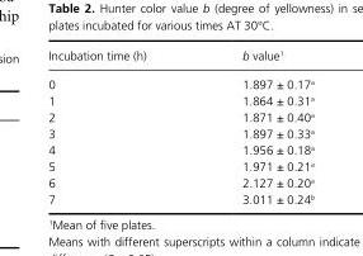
<table><thead><tr><td>Incubation time (h)</td><td>b value<sup>1</sup></td></tr></thead><tbody><tr><td>0</td><td>1.897 ± 0.17<sup>a</sup></td></tr><tr><td>1</td><td>1.864 ± 0.31<sup>a</sup></td></tr><tr><td>2</td><td>1.871 ± 0.40<sup>a</sup></td></tr><tr><td>3</td><td>1.897 ± 0.33<sup>a</sup></td></tr><tr><td>4</td><td>1.956 ± 0.18<sup>a</sup></td></tr><tr><td>5</td><td>1.971 ± 0.21<sup>a</sup></td></tr><tr><td>6</td><td>2.127 ± 0.20<sup>a</sup></td></tr><tr><td>7</td><td>3.011 ± 0.24<sup>b</sup></td></tr></tbody></table>